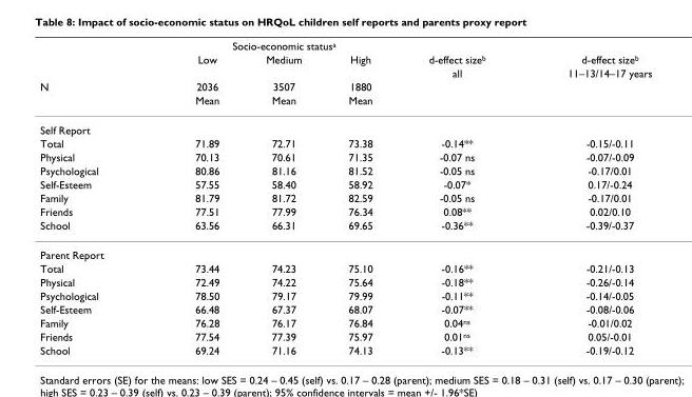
<table><thead><tr><td rowspan="5">N</td><td colspan="3">Socio-economic status<sup>a</sup></td><td rowspan="5">d-effect size<sup>b</sup> all</td><td rowspan="5">d-effect size<sup>b</sup> 11–13/14–17 years</td></tr><tr><td rowspan="4">Low 2036 Mean</td><td rowspan="4">Medium 3507 Mean</td><td rowspan="4">High 1880 Mean</td></tr><tr></tr><tr></tr><tr></tr></thead><tbody><tr><td colspan="6">Self Report</td></tr><tr><td>Total</td><td>71.89</td><td>72.71</td><td>73.38</td><td>-0.14**</td><td>-0.15/-0.11</td></tr><tr><td>Physical</td><td>70.13</td><td>70.61</td><td>71.35</td><td>-0.07 ns</td><td>-0.07/-0.09</td></tr><tr><td>Psychological</td><td>80.86</td><td>81.16</td><td>81.52</td><td>-0.05 ns</td><td>-0.17/0.01</td></tr><tr><td>Self-Esteem</td><td>57.55</td><td>58.40</td><td>58.92</td><td>-0.07*</td><td>0.17/-0.24</td></tr><tr><td>Family</td><td>81.79</td><td>81.72</td><td>82.59</td><td>-0.05 ns</td><td>-0.17/0.01</td></tr><tr><td>Friends</td><td>77.51</td><td>77.99</td><td>76.34</td><td>0.08**</td><td>0.02/0.10</td></tr><tr><td>School</td><td>63.56</td><td>66.31</td><td>69.65</td><td>-0.36**</td><td>-0.39/-0.37</td></tr><tr><td colspan="6">Parent Report</td></tr><tr><td>Total</td><td>73.44</td><td>74.23</td><td>75.10</td><td>-0.16**</td><td>-0.21/-0.13</td></tr><tr><td>Physical</td><td>72.49</td><td>74.22</td><td>75.64</td><td>-0.18**</td><td>-0.26/-0.14</td></tr><tr><td>Psychological</td><td>78.50</td><td>79.17</td><td>79.99</td><td>-0.11**</td><td>-0.14/-0.05</td></tr><tr><td>Self-Esteem</td><td>66.48</td><td>67.37</td><td>68.07</td><td>-0.07**</td><td>-0.08/-0.06</td></tr><tr><td>Family</td><td>76.28</td><td>76.17</td><td>76.84</td><td>0.04<sup>ns</sup></td><td>-0.01/0.02</td></tr><tr><td>Friends</td><td>77.54</td><td>77.39</td><td>75.97</td><td>0.01<sup>ns</sup></td><td>0.05/-0.01</td></tr><tr><td>School</td><td>69.24</td><td>71.16</td><td>74.13</td><td>-0.13**</td><td>-0.19/-0.12</td></tr></tbody></table>